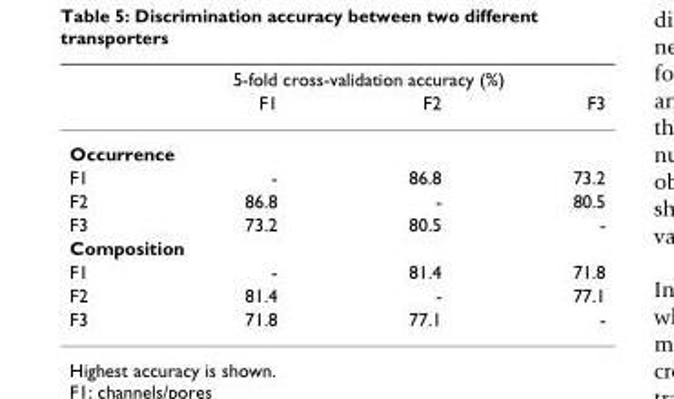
<table><thead><tr><td rowspan="2"></td><td colspan="3">5-fold cross-validation accuracy (%)</td></tr><tr><td>F1</td><td>F2</td><td>F3</td></tr></thead><tbody><tr><td colspan="4">Occurrence</td></tr><tr><td>F1</td><td>-</td><td>86.8</td><td>73.2</td></tr><tr><td>F2</td><td>86.8</td><td>-</td><td>80.5</td></tr><tr><td>F3</td><td>73.2</td><td>80.5</td><td>-</td></tr><tr><td colspan="4">Composition</td></tr><tr><td>F1</td><td>-</td><td>81.4</td><td>71.8</td></tr><tr><td>F2</td><td>81.4</td><td>-</td><td>77.1</td></tr><tr><td>F3</td><td>71.8</td><td>77.1</td><td>-</td></tr></tbody></table>